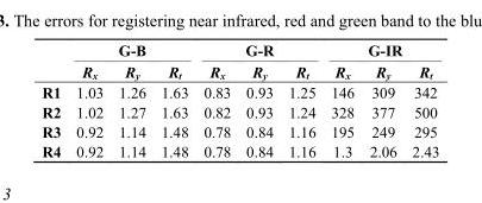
<table><thead><tr><td rowspan="2"></td><td colspan="3">G-B</td><td colspan="3">G-R</td><td colspan="3">G-IR</td></tr><tr><td>R<sub>x</sub></td><td>R<sub>y</sub></td><td>R<sub>t</sub></td><td>R<sub>x</sub></td><td>R<sub>y</sub></td><td>R<sub>t</sub></td><td>R<sub>x</sub></td><td>R<sub>y</sub></td><td>R<sub>t</sub></td></tr></thead><tbody><tr><td>R1</td><td>1.03</td><td>1.26</td><td>1.63</td><td>0.83</td><td>0.93</td><td>1.25</td><td>146</td><td>309</td><td>342</td></tr><tr><td>R2</td><td>1.02</td><td>1.27</td><td>1.63</td><td>0.82</td><td>0.93</td><td>1.24</td><td>328</td><td>377</td><td>500</td></tr><tr><td>R3</td><td>0.92</td><td>1.14</td><td>1.48</td><td>0.78</td><td>0.84</td><td>1.16</td><td>195</td><td>249</td><td>295</td></tr><tr><td>R4</td><td>0.92</td><td>1.14</td><td>1.48</td><td>0.78</td><td>0.84</td><td>1.16</td><td>1.3</td><td>2.06</td><td>2.43</td></tr></tbody></table>